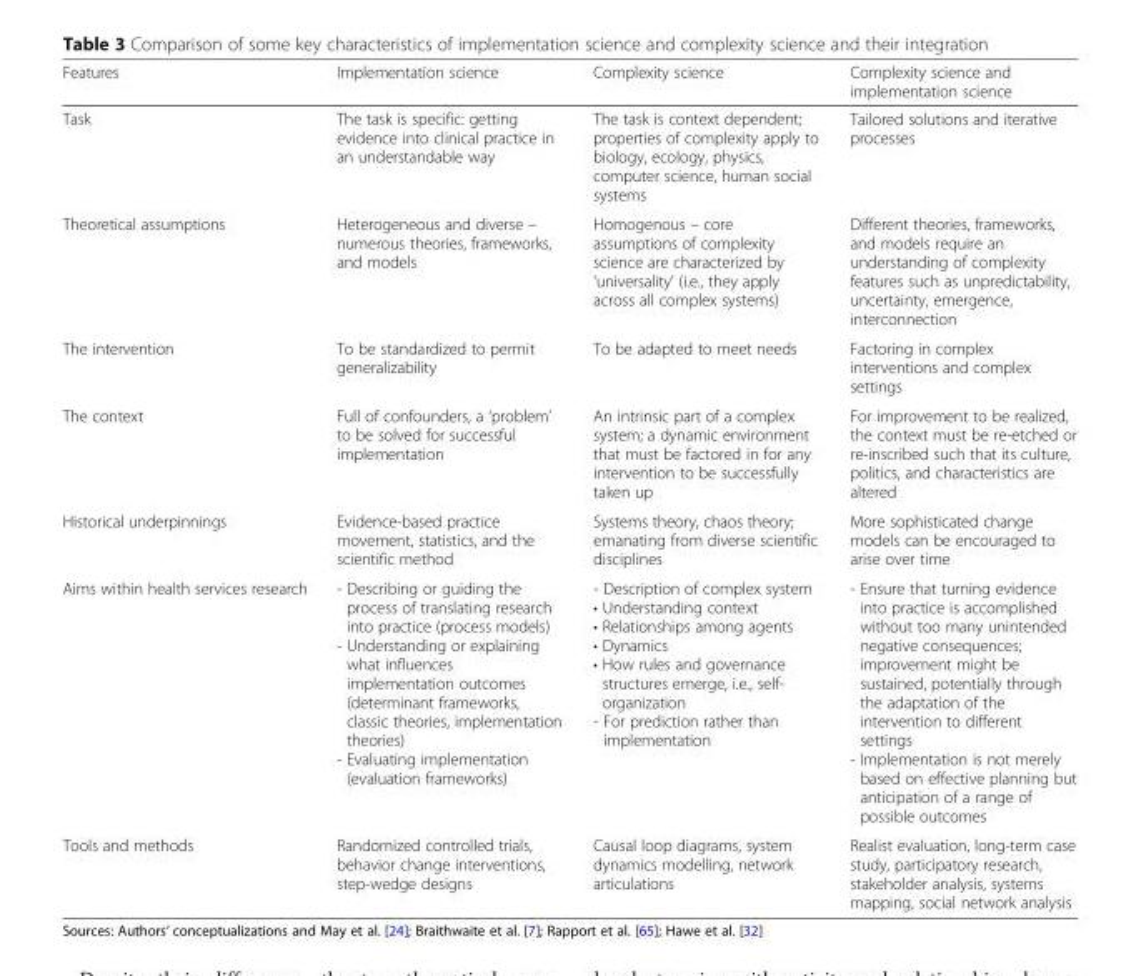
<table><thead><tr><td>Features</td><td>Implementation science</td><td>Complexity science</td><td>Complexity science and implementation science</td></tr></thead><tbody><tr><td>Task</td><td>The task is specific: getting evidence into clinical practice in an understandable way</td><td>The task is context dependent; properties of complexity apply to biology, ecology, physics, computer science, human social systems</td><td>Tailored solutions and iterative processes</td></tr><tr><td>Theoretical assumptions</td><td>Heterogeneous and diverse – numerous theories, frameworks, and models</td><td>Homogenous – core assumptions of complexity science are characterized by ‘universality’ (i.e., they apply across all complex systems)</td><td>Different theories, frameworks, and models require an understanding of complexity features such as unpredictability, uncertainty, emergence, interconnection</td></tr><tr><td>The intervention</td><td>To be standardized to permit generalizability</td><td>To be adapted to meet needs</td><td>Factoring in complex interventions and complex settings</td></tr><tr><td>The context</td><td>Full of confounders, a ‘problem’ to be solved for successful implementation</td><td>An intrinsic part of a complex system; a dynamic environment that must be factored in for any intervention to be successfully taken up</td><td>For improvement to be realized, the context must be re-etched or re-inscribed such that its culture, politics, and characteristics are altered</td></tr><tr><td>Historical underpinnings</td><td>Evidence-based practice movement, statistics, and the scientific method</td><td>Systems theory, chaos theory; emanating from diverse scientific disciplines</td><td>More sophisticated change models can be encouraged to arise over time</td></tr><tr><td>Aims within health services research</td><td>- Describing or guiding the process of translating research into practice (process models) - Understanding or explaining what influences implementation outcomes (determinant frameworks, classic theories, implementation theories) - Evaluating implementation (evaluation frameworks)</td><td>- Description of complex system • Understanding context • Relationships among agents • Dynamics • How rules and governance structures emerge, i.e., self- organization - For prediction rather than implementation</td><td>- Ensure that turning evidence into practice is accomplished without too many unintended negative consequences; improvement might be sustained, potentially through the adaptation of the intervention to different settings - Implementation is not merely based on effective planning but anticipation of a range of possible outcomes</td></tr><tr><td>Tools and methods</td><td>Randomized controlled trials, behavior change interventions, step-wedge designs</td><td>Causal loop diagrams, system dynamics modelling, network articulations</td><td>Realist evaluation, long-term case study, participatory research, stakeholder analysis, systems mapping, social network analysis</td></tr></tbody></table>